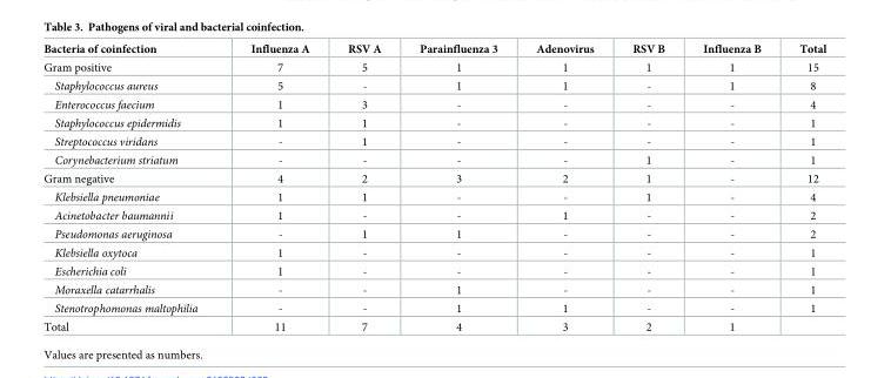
<table><thead><tr><td>Bacteria of coinfection</td><td>Influenza A</td><td>RSV A</td><td>Parainfluenza 3</td><td>Adenovirus</td><td>RSV B</td><td>Influenza B</td><td>Total</td></tr></thead><tbody><tr><td>Gram positive</td><td>7</td><td>5</td><td>1</td><td>1</td><td>1</td><td>1</td><td>15</td></tr><tr><td>Staphylococcus aureus</td><td>5</td><td>-</td><td>1</td><td>1</td><td>-</td><td>1</td><td>8</td></tr><tr><td>Enterococcus faecium</td><td>1</td><td>3</td><td>-</td><td>-</td><td>-</td><td>-</td><td>4</td></tr><tr><td>Staphylococcus epidermidis</td><td>1</td><td>1</td><td>-</td><td>-</td><td>-</td><td>-</td><td>1</td></tr><tr><td>Streptococcus viridans</td><td>-</td><td>1</td><td>-</td><td>-</td><td>-</td><td>-</td><td>1</td></tr><tr><td>Corynebacterium striatum</td><td>-</td><td>-</td><td>-</td><td>-</td><td>1</td><td>-</td><td>1</td></tr><tr><td>Gram negative</td><td>4</td><td>2</td><td>3</td><td>2</td><td>1</td><td>-</td><td>12</td></tr><tr><td>Klebsiella pneumoniae</td><td>1</td><td>1</td><td>-</td><td>-</td><td>1</td><td>-</td><td>4</td></tr><tr><td>Acinetobacter baumannii</td><td>1</td><td>-</td><td>-</td><td>1</td><td>-</td><td>-</td><td>2</td></tr><tr><td>Pseudomonas aeruginosa</td><td>-</td><td>1</td><td>1</td><td>-</td><td>-</td><td>-</td><td>2</td></tr><tr><td>Klebsiella oxytoca</td><td>1</td><td>-</td><td>-</td><td>-</td><td>-</td><td>-</td><td>1</td></tr><tr><td>Escherichia coli</td><td>1</td><td>-</td><td>-</td><td>-</td><td>-</td><td>-</td><td>1</td></tr><tr><td>Moraxella catarrhalis</td><td>-</td><td>-</td><td>1</td><td>-</td><td>-</td><td>-</td><td>1</td></tr><tr><td>Stenotrophomonas maltophilia</td><td>-</td><td>-</td><td>1</td><td>1</td><td>-</td><td>-</td><td>1</td></tr><tr><td>Total</td><td>11</td><td>7</td><td>4</td><td>3</td><td>2</td><td>1</td><td></td></tr></tbody></table>